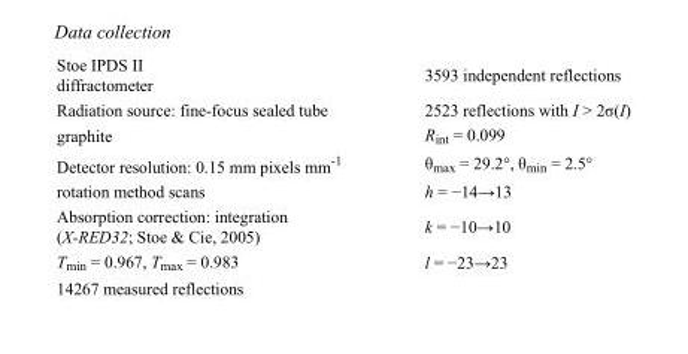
<table><tbody><tr><td>Stoe IPDS II diffractometer</td><td>3593 independent reflections</td></tr><tr><td>Radiation source: fine-focus sealed tube</td><td>2523 reflections with I &gt; 2σ(I)</td></tr><tr><td>graphite</td><td>R<sub>int</sub> = 0.099</td></tr><tr><td>Detector resolution: 0.15 mm pixels mm<sup>-1</sup></td><td>θ<sub>max</sub> = 29.2°, θ<sub>min</sub> = 2.5°</td></tr><tr><td>rotation method scans</td><td>h = −14→13</td></tr><tr><td>Absorption correction: integration (X-RED32; Stoe &amp; Cie, 2005)</td><td>k = −10→10</td></tr><tr><td>T<sub>min</sub> = 0.967, T<sub>max</sub> = 0.983</td><td>l = −23→23</td></tr><tr><td>14267 measured reflections</td><td></td></tr></tbody></table>